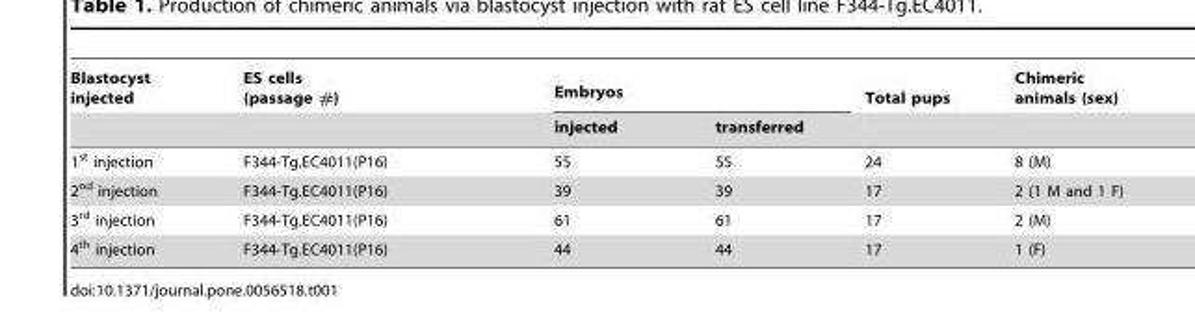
<table><thead><tr><td rowspan="2">Blastocyst injected</td><td rowspan="2">ES cells (passage #)</td><td colspan="2">Embryos</td><td rowspan="2">Total pups</td><td rowspan="2">Chimeric animals (sex)</td></tr><tr><td>injected</td><td>transferred</td></tr></thead><tbody><tr><td>1<sup>st</sup> injection</td><td>F344-Tg.EC4011(P16)</td><td>55</td><td>55</td><td>24</td><td>8 (M)</td></tr><tr><td>2<sup>nd</sup> injection</td><td>F344-Tg.EC4011(P16)</td><td>39</td><td>39</td><td>17</td><td>2 (1 M and 1 F)</td></tr><tr><td>3<sup>rd</sup> injection</td><td>F344-Tg.EC4011(P16)</td><td>61</td><td>61</td><td>17</td><td>2 (M)</td></tr><tr><td>4<sup>th</sup> injection</td><td>F344-Tg.EC4011(P16)</td><td>44</td><td>44</td><td>17</td><td>1 (F)</td></tr></tbody></table>